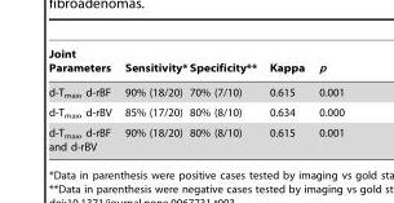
<table><thead><tr><td>Joint Parameters</td><td>Sensitivity*</td><td>Specificity**</td><td>Kappa</td><td>p</td></tr></thead><tbody><tr><td>d-T<sub>max</sub>, d-rBF</td><td>90% (18/20)</td><td>70% (7/10)</td><td>0.615</td><td>0.001</td></tr><tr><td>d-T<sub>max</sub>, d-rBV</td><td>85% (17/20)</td><td>80% (8/10)</td><td>0.634</td><td>0.000</td></tr><tr><td>d-T<sub>max</sub>, d-rBF and d-rBV</td><td>90% (18/20)</td><td>80% (8/10)</td><td>0.615</td><td>0.001</td></tr></tbody></table>